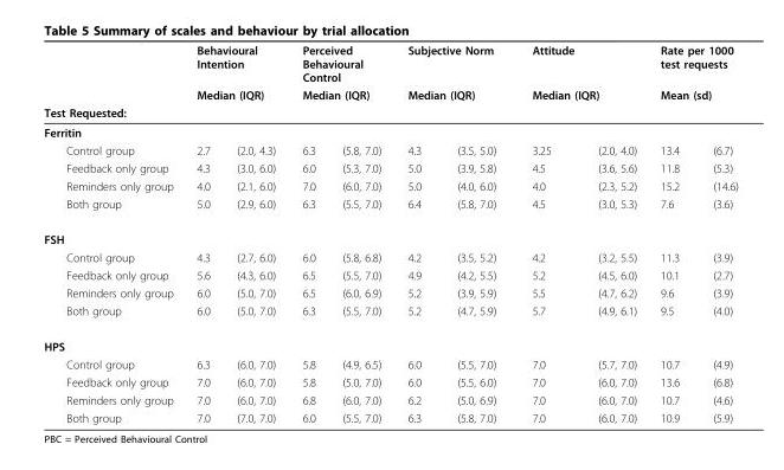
<table><thead><tr><td rowspan="3">Test Requested:</td><td rowspan="2" colspan="2">Behavioural Intention Median (IQR)</td><td rowspan="2" colspan="2">Perceived Behavioural Control Median (IQR)</td><td rowspan="2" colspan="2">Subjective Norm Median (IQR)</td><td>Attitude</td><td></td><td rowspan="2" colspan="2">Rate per 1000 test requests Mean (sd)</td></tr><tr><td colspan="2">Median (IQR)</td></tr><tr><td></td><td></td><td></td><td></td><td></td><td></td><td></td><td></td><td></td><td></td></tr></thead><tbody><tr><td colspan="11">Ferritin</td></tr><tr><td>Control group</td><td>2.7</td><td>(2.0, 4.3)</td><td>6.3</td><td>(5.8, 7.0)</td><td>4.3</td><td>(3.5, 5.0)</td><td>3.25</td><td>(2.0, 4.0)</td><td>13.4</td><td>(6.7)</td></tr><tr><td>Feedback only group</td><td>4.3</td><td>(3.0, 6.0)</td><td>6.0</td><td>(5.3, 7.0)</td><td>5.0</td><td>(3.9, 5.8)</td><td>4.5</td><td>(3.6, 5.6)</td><td>11.8</td><td>(5.3)</td></tr><tr><td>Reminders only group</td><td>4.0</td><td>(2.1, 6.0)</td><td>7.0</td><td>(6.0, 7.0)</td><td>5.0</td><td>(4.0, 6.0)</td><td>4.0</td><td>(2.3, 5.2)</td><td>15.2</td><td>(14.6)</td></tr><tr><td>Both group</td><td>5.0</td><td>(2.9, 6.0)</td><td>6.3</td><td>(5.5, 7.0)</td><td>6.4</td><td>(5.8, 7.0)</td><td>4.5</td><td>(3.0, 5.3)</td><td>7.6</td><td>(3.6)</td></tr><tr><td colspan="11">FSH</td></tr><tr><td>Control group</td><td>4.3</td><td>(2.7, 6.0)</td><td>6.0</td><td>(5.8, 6.8)</td><td>4.2</td><td>(3.5, 5.2)</td><td>4.2</td><td>(3.2, 5.5)</td><td>11.3</td><td>(3.9)</td></tr><tr><td>Feedback only group</td><td>5.6</td><td>(4.3, 6.0)</td><td>6.5</td><td>(5.5, 7.0)</td><td>4.9</td><td>(4.2, 5.5)</td><td>5.2</td><td>(4.5, 6.0)</td><td>10.1</td><td>(2.7)</td></tr><tr><td>Reminders only group</td><td>6.0</td><td>(5.0, 7.0)</td><td>6.5</td><td>(6.0, 6.9)</td><td>5.2</td><td>(3.9, 5.9)</td><td>5.5</td><td>(4.7, 6.2)</td><td>9.6</td><td>(3.9)</td></tr><tr><td>Both group</td><td>6.0</td><td>(5.0, 7.0)</td><td>6.3</td><td>(5.5, 7.0)</td><td>5.2</td><td>(4.7, 5.9)</td><td>5.7</td><td>(4.9, 6.1)</td><td>9.5</td><td>(4.0)</td></tr><tr><td colspan="11">HPS</td></tr><tr><td>Control group</td><td>6.3</td><td>(6.0, 7.0)</td><td>5.8</td><td>(4.9, 6.5)</td><td>6.0</td><td>(5.5, 7.0)</td><td>7.0</td><td>(5.7, 7.0)</td><td>10.7</td><td>(4.9)</td></tr><tr><td>Feedback only group</td><td>7.0</td><td>(6.0, 7.0)</td><td>5.8</td><td>(5.0, 7.0)</td><td>6.0</td><td>(5.5, 6.0)</td><td>7.0</td><td>(6.0, 7.0)</td><td>13.6</td><td>(6.8)</td></tr><tr><td>Reminders only group</td><td>7.0</td><td>(6.0, 7.0)</td><td>6.8</td><td>(6.0, 7.0)</td><td>6.2</td><td>(5.0, 6.9)</td><td>7.0</td><td>(6.0, 7.0)</td><td>10.7</td><td>(4.6)</td></tr><tr><td>Both group</td><td>7.0</td><td>(7.0, 7.0)</td><td>6.0</td><td>(5.5, 7.0)</td><td>6.3</td><td>(5.8, 7.0)</td><td>7.0</td><td>(6.0, 7.0)</td><td>10.9</td><td>(5.9)</td></tr></tbody></table>